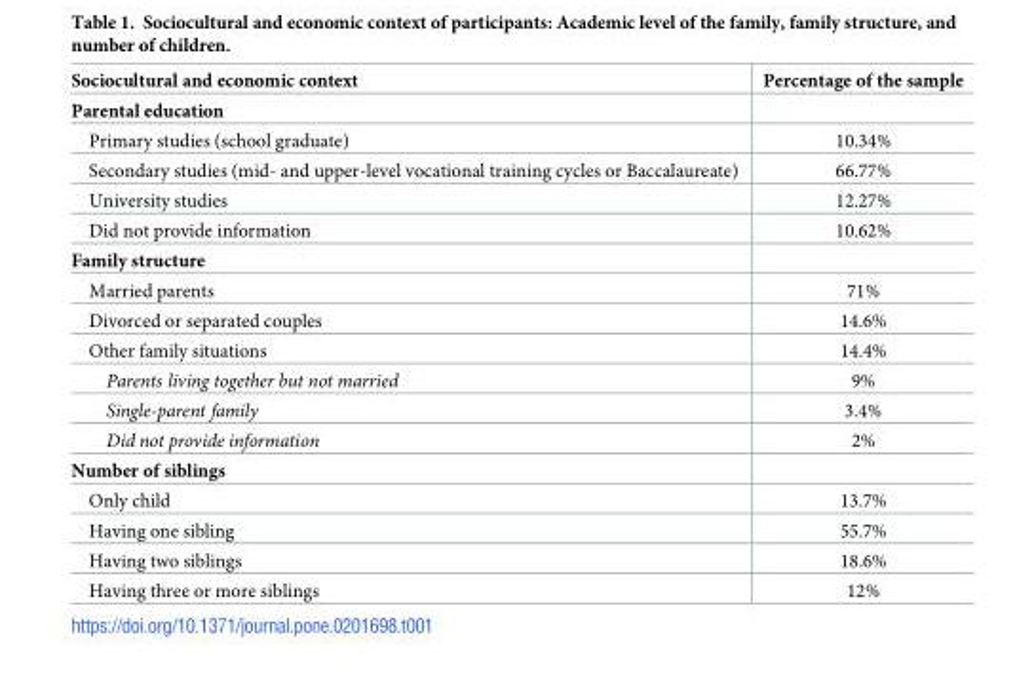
<table><thead><tr><td>Sociocultural and economic context</td><td>Percentage of the sample</td></tr></thead><tbody><tr><td colspan="2">Parental education</td></tr><tr><td>Primary studies (school graduate)</td><td>10.34%</td></tr><tr><td>Secondary studies (mid- and upper-level vocational training cycles or Baccalaureate)</td><td>66.77%</td></tr><tr><td>University studies</td><td>12.27%</td></tr><tr><td>Did not provide information</td><td>10.62%</td></tr><tr><td colspan="2">Family structure</td></tr><tr><td>Married parents</td><td>71%</td></tr><tr><td>Divorced or separated couples</td><td>14.6%</td></tr><tr><td>Other family situations</td><td>14.4%</td></tr><tr><td>Parents living together but not married</td><td>9%</td></tr><tr><td>Single-parent family</td><td>3.4%</td></tr><tr><td>Did not provide information</td><td>2%</td></tr><tr><td colspan="2">Number of siblings</td></tr><tr><td>Only child</td><td>13.7%</td></tr><tr><td>Having one sibling</td><td>55.7%</td></tr><tr><td>Having two siblings</td><td>18.6%</td></tr><tr><td>Having three or more siblings</td><td>12%</td></tr></tbody></table>